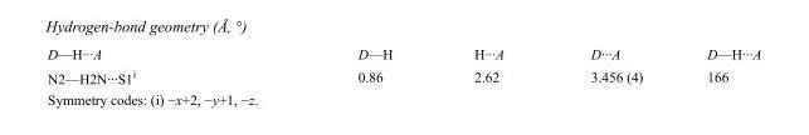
<table><tbody><tr><td>D—H···A</td><td>D—H</td><td>H···A</td><td>D···A</td><td>D—H···A</td></tr><tr><td>N2—H2N···S1<sup>i</sup></td><td>0.86</td><td>2.62</td><td>3.456 (4)</td><td>166</td></tr></tbody></table>